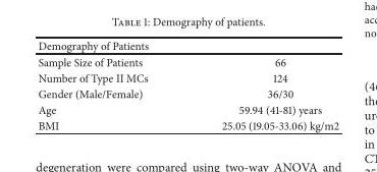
<table><thead><tr><td>Demography of Patients</td><td></td></tr></thead><tbody><tr><td>Sample Size of Patients</td><td>66</td></tr><tr><td>Number of Type II MCs</td><td>124</td></tr><tr><td>Gender (Male/Female)</td><td>36/30</td></tr><tr><td>Age</td><td>59.94 (41-81) years</td></tr><tr><td>BMI</td><td>25.05 (19.05-33.06) kg/m2</td></tr></tbody></table>